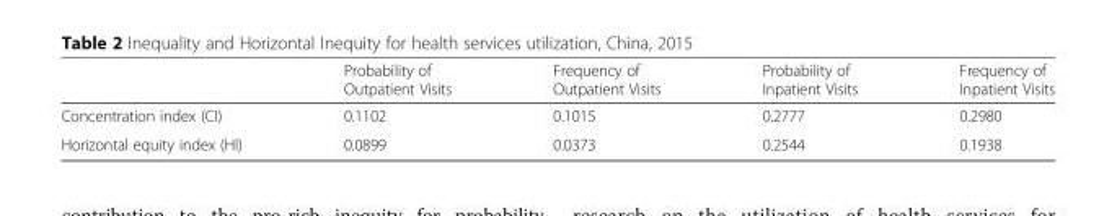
<table><thead><tr><td></td><td>Probability of Outpatient Visits</td><td>Frequency of Outpatient Visits</td><td>Probability of Inpatient Visits</td><td>Frequency of Inpatient Visits</td></tr></thead><tbody><tr><td>Concentration index (CI)</td><td>0.1102</td><td>0.1015</td><td>0.2777</td><td>0.2980</td></tr><tr><td>Horizontal equity index (HI)</td><td>0.0899</td><td>0.0373</td><td>0.2544</td><td>0.1938</td></tr></tbody></table>